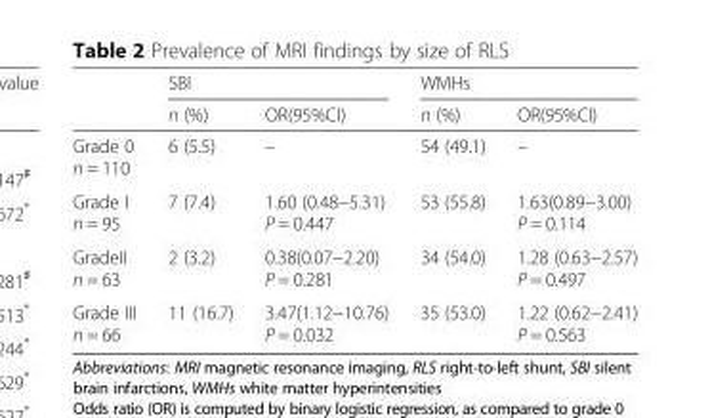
<table><thead><tr><td rowspan="2"></td><td colspan="2">SBI</td><td colspan="2">WMHs</td></tr><tr><td>n (%)</td><td>OR(95%CI)</td><td>n (%)</td><td>OR(95%CI)</td></tr></thead><tbody><tr><td>Grade 0 n = 110</td><td>6 (5.5)</td><td>–</td><td>54 (49.1)</td><td>–</td></tr><tr><td>Grade I n = 95</td><td>7 (7.4)</td><td>1.60 (0.48−5.31) P = 0.447</td><td>53 (55.8)</td><td>1.63(0.89−3.00) P = 0.114</td></tr><tr><td>GradeII n = 63</td><td>2 (3.2)</td><td>0.38(0.07−2.20) P = 0.281</td><td>34 (54.0)</td><td>1.28 (0.63−2.57) P = 0.497</td></tr><tr><td>Grade III n = 66</td><td>11 (16.7)</td><td>3.47(1.12−10.76) P = 0.032</td><td>35 (53.0)</td><td>1.22 (0.62−2.41) P = 0.563</td></tr></tbody></table>